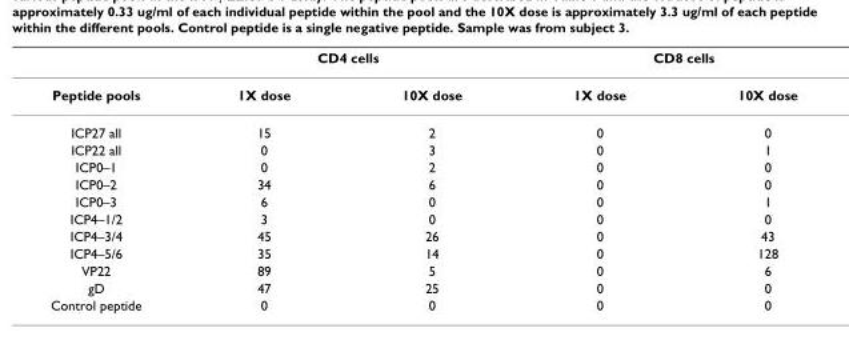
<table><thead><tr><td rowspan="2">Peptide pools</td><td colspan="2">CD4 cells</td><td colspan="2">CD8 cells</td></tr><tr><td>1X dose</td><td>10X dose</td><td>1X dose</td><td>10X dose</td></tr></thead><tbody><tr><td>ICP27 all</td><td>15</td><td>2</td><td>0</td><td>0</td></tr><tr><td>ICP22 all</td><td>0</td><td>3</td><td>0</td><td>1</td></tr><tr><td>ICP0–1</td><td>0</td><td>2</td><td>0</td><td>0</td></tr><tr><td>ICP0–2</td><td>34</td><td>6</td><td>0</td><td>0</td></tr><tr><td>ICP0–3</td><td>6</td><td>0</td><td>0</td><td>1</td></tr><tr><td>ICP4–1/2</td><td>3</td><td>0</td><td>0</td><td>0</td></tr><tr><td>ICP4–3/4</td><td>45</td><td>26</td><td>0</td><td>43</td></tr><tr><td>ICP4–5/6</td><td>35</td><td>14</td><td>0</td><td>128</td></tr><tr><td>VP22</td><td>89</td><td>5</td><td>0</td><td>6</td></tr><tr><td>gD</td><td>47</td><td>25</td><td>0</td><td>0</td></tr><tr><td>Control peptide</td><td>0</td><td>0</td><td>0</td><td>0</td></tr></tbody></table>